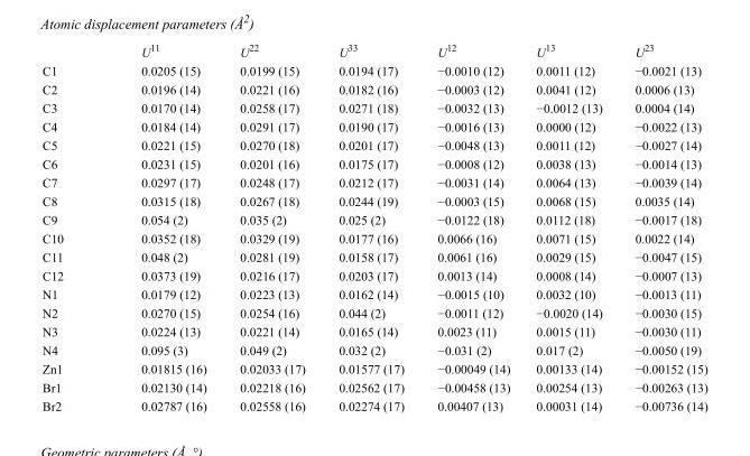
<table><thead><tr><td></td><td>U<sup>11</sup></td><td>U<sup>22</sup></td><td>U<sup>33</sup></td><td>U<sup>12</sup></td><td>U<sup>13</sup></td><td>U<sup>23</sup></td></tr></thead><tbody><tr><td>C1</td><td>0.0205 (15)</td><td>0.0199 (15)</td><td>0.0194 (17)</td><td>−0.0010 (12)</td><td>0.0011 (12)</td><td>−0.0021 (13)</td></tr><tr><td>C2</td><td>0.0196 (14)</td><td>0.0221 (16)</td><td>0.0182 (16)</td><td>−0.0003 (12)</td><td>0.0041 (12)</td><td>0.0006 (13)</td></tr><tr><td>C3</td><td>0.0170 (14)</td><td>0.0258 (17)</td><td>0.0271 (18)</td><td>−0.0032 (13)</td><td>−0.0012 (13)</td><td>0.0004 (14)</td></tr><tr><td>C4</td><td>0.0184 (14)</td><td>0.0291 (17)</td><td>0.0190 (17)</td><td>−0.0016 (13)</td><td>0.0000 (12)</td><td>−0.0022 (13)</td></tr><tr><td>C5</td><td>0.0221 (15)</td><td>0.0270 (18)</td><td>0.0201 (17)</td><td>−0.0048 (13)</td><td>0.0011 (12)</td><td>−0.0027 (14)</td></tr><tr><td>C6</td><td>0.0231 (15)</td><td>0.0201 (16)</td><td>0.0175 (17)</td><td>−0.0008 (12)</td><td>0.0038 (13)</td><td>−0.0014 (13)</td></tr><tr><td>C7</td><td>0.0297 (17)</td><td>0.0248 (17)</td><td>0.0212 (17)</td><td>−0.0031 (14)</td><td>0.0064 (13)</td><td>−0.0039 (14)</td></tr><tr><td>C8</td><td>0.0315 (18)</td><td>0.0267 (18)</td><td>0.0244 (19)</td><td>−0.0003 (15)</td><td>0.0068 (15)</td><td>0.0035 (14)</td></tr><tr><td>C9</td><td>0.054 (2)</td><td>0.035 (2)</td><td>0.025 (2)</td><td>−0.0122 (18)</td><td>0.0112 (18)</td><td>−0.0017 (18)</td></tr><tr><td>C10</td><td>0.0352 (18)</td><td>0.0329 (19)</td><td>0.0177 (16)</td><td>0.0066 (16)</td><td>0.0071 (15)</td><td>0.0022 (14)</td></tr><tr><td>C11</td><td>0.048 (2)</td><td>0.0281 (19)</td><td>0.0158 (17)</td><td>0.0061 (16)</td><td>0.0029 (15)</td><td>−0.0047 (15)</td></tr><tr><td>C12</td><td>0.0373 (19)</td><td>0.0216 (17)</td><td>0.0203 (17)</td><td>0.0013 (14)</td><td>0.0008 (14)</td><td>−0.0007 (13)</td></tr><tr><td>N1</td><td>0.0179 (12)</td><td>0.0223 (13)</td><td>0.0162 (14)</td><td>−0.0015 (10)</td><td>0.0032 (10)</td><td>−0.0013 (11)</td></tr><tr><td>N2</td><td>0.0270 (15)</td><td>0.0254 (16)</td><td>0.044 (2)</td><td>−0.0011 (12)</td><td>−0.0020 (14)</td><td>−0.0030 (15)</td></tr><tr><td>N3</td><td>0.0224 (13)</td><td>0.0221 (14)</td><td>0.0165 (14)</td><td>0.0023 (11)</td><td>0.0015 (11)</td><td>−0.0030 (11)</td></tr><tr><td>N4</td><td>0.095 (3)</td><td>0.049 (2)</td><td>0.032 (2)</td><td>−0.031 (2)</td><td>0.017 (2)</td><td>−0.0050 (19)</td></tr><tr><td>Zn1</td><td>0.01815 (16)</td><td>0.02033 (17)</td><td>0.01577 (17)</td><td>−0.00049 (14)</td><td>0.00133 (14)</td><td>−0.00152 (15)</td></tr><tr><td>Br1</td><td>0.02130 (14)</td><td>0.02218 (16)</td><td>0.02562 (17)</td><td>−0.00458 (13)</td><td>0.00254 (13)</td><td>−0.00263 (13)</td></tr><tr><td>Br2</td><td>0.02787 (16)</td><td>0.02558 (16)</td><td>0.02274 (17)</td><td>0.00407 (13)</td><td>0.00031 (14)</td><td>−0.00736 (14)</td></tr></tbody></table>